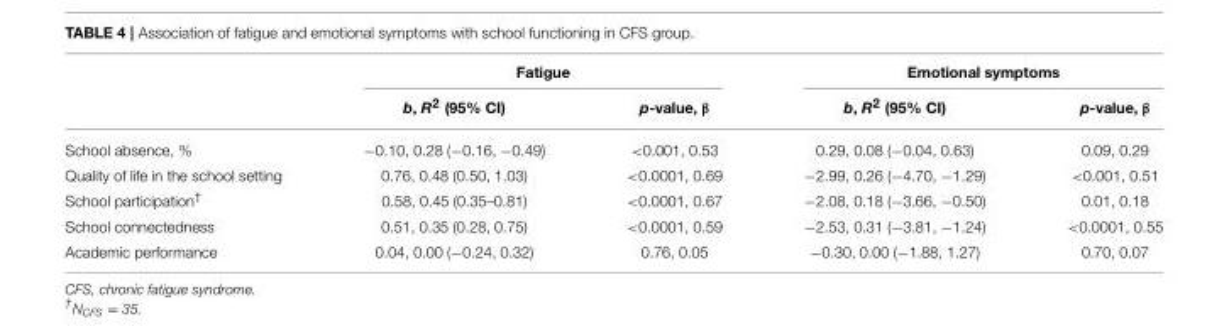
<table><thead><tr><td rowspan="2"></td><td colspan="2">Fatigue</td><td colspan="2">Emotional symptoms</td></tr><tr><td>b, R<sup>2</sup> (95% CI)</td><td>p-value, β</td><td>b, R<sup>2</sup> (95% CI)</td><td>p-value, β</td></tr></thead><tbody><tr><td>School absence, %</td><td>−0.10, 0.28 (−0.16, −0.49)</td><td>&lt;0.001, 0.53</td><td>0.29, 0.08 (−0.04, 0.63)</td><td>0.09, 0.29</td></tr><tr><td>Quality of life in the school setting</td><td>0.76, 0.48 (0.50, 1.03)</td><td>&lt;0.0001, 0.69</td><td>−2.99, 0.26 (−4.70, −1.29)</td><td>&lt;0.001, 0.51</td></tr><tr><td>School participation<sup>†</sup></td><td>0.58, 0.45 (0.35–0.81)</td><td>&lt;0.0001, 0.67</td><td>−2.08, 0.18 (−3.66, −0.50)</td><td>0.01, 0.18</td></tr><tr><td>School connectedness</td><td>0.51, 0.35 (0.28, 0.75)</td><td>&lt;0.0001, 0.59</td><td>−2.53, 0.31 (−3.81, −1.24)</td><td>&lt;0.0001, 0.55</td></tr><tr><td>Academic performance</td><td>0.04, 0.00 (−0.24, 0.32)</td><td>0.76, 0.05</td><td>−0.30, 0.00 (−1.88, 1.27)</td><td>0.70, 0.07</td></tr></tbody></table>